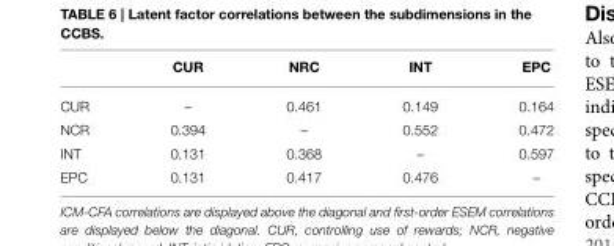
<table><thead><tr><td></td><td>CUR</td><td>NRC</td><td>INT</td><td>EPC</td></tr></thead><tbody><tr><td>CUR</td><td>–</td><td>0.461</td><td>0.149</td><td>0.164</td></tr><tr><td>NCR</td><td>0.394</td><td>–</td><td>0.552</td><td>0.472</td></tr><tr><td>INT</td><td>0.131</td><td>0.368</td><td>–</td><td>0.597</td></tr><tr><td>EPC</td><td>0.131</td><td>0.417</td><td>0.476</td><td>–</td></tr></tbody></table>